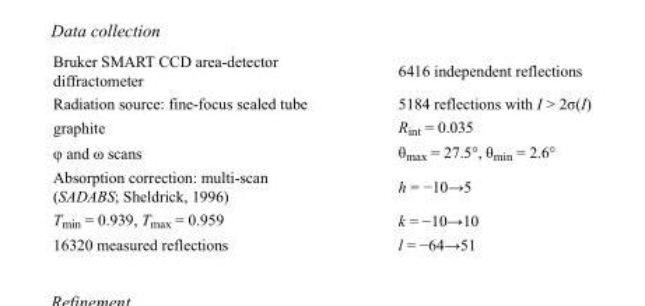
<table><tbody><tr><td>Bruker SMART CCD area-detector diffractometer</td><td>6416 independent reflections</td></tr><tr><td>Radiation source: fine-focus sealed tube</td><td>5184 reflections with I &gt; 2σ(I)</td></tr><tr><td>graphite</td><td>R<sub>int</sub> = 0.035</td></tr><tr><td>φ and ω scans</td><td>θ<sub>max</sub> = 27.5°, θ<sub>min</sub> = 2.6°</td></tr><tr><td>Absorption correction: multi-scan (SADABS; Sheldrick, 1996)</td><td>h = −10→5</td></tr><tr><td>T<sub>min</sub> = 0.939, T<sub>max</sub> = 0.959</td><td>k = −10→10</td></tr><tr><td>16320 measured reflections</td><td>l = −64→51</td></tr></tbody></table>